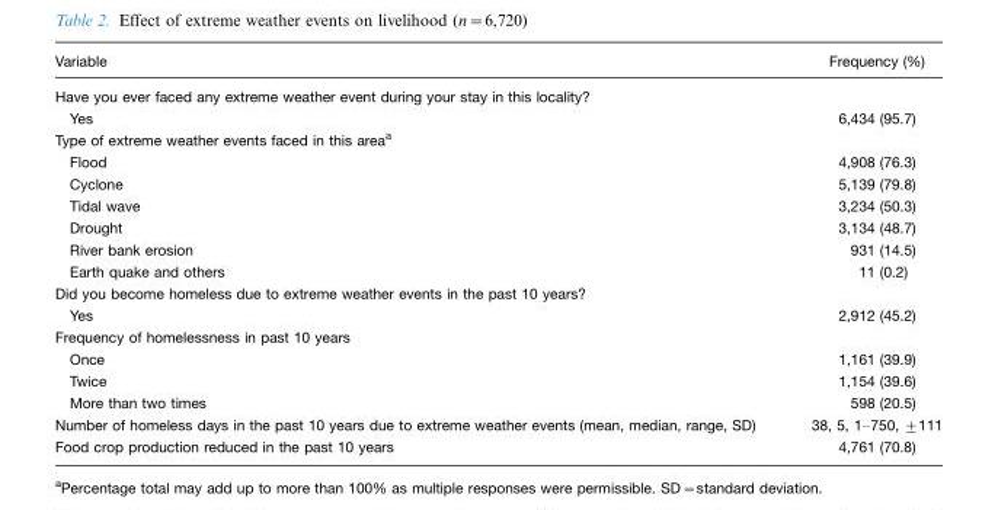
<table><thead><tr><td>Variable</td><td>Frequency (%)</td></tr></thead><tbody><tr><td colspan="2">Have you ever faced any extreme weather event during your stay in this locality?</td></tr><tr><td>Yes</td><td>6,434 (95.7)</td></tr><tr><td colspan="2">Type of extreme weather events faced in this area<sup>a</sup></td></tr><tr><td>Flood</td><td>4,908 (76.3)</td></tr><tr><td>Cyclone</td><td>5,139 (79.8)</td></tr><tr><td>Tidal wave</td><td>3,234 (50.3)</td></tr><tr><td>Drought</td><td>3,134 (48.7)</td></tr><tr><td>River bank erosion</td><td>931 (14.5)</td></tr><tr><td>Earth quake and others</td><td>11 (0.2)</td></tr><tr><td colspan="2">Did you become homeless due to extreme weather events in the past 10 years?</td></tr><tr><td>Yes</td><td>2,912 (45.2)</td></tr><tr><td colspan="2">Frequency of homelessness in past 10 years</td></tr><tr><td>Once</td><td>1,161 (39.9)</td></tr><tr><td>Twice</td><td>1,154 (39.6)</td></tr><tr><td>More than two times</td><td>598 (20.5)</td></tr><tr><td>Number of homeless days in the past 10 years due to extreme weather events (mean, median, range, SD)</td><td>38, 5, 1–750, ±111</td></tr><tr><td>Food crop production reduced in the past 10 years</td><td>4,761 (70.8)</td></tr></tbody></table>